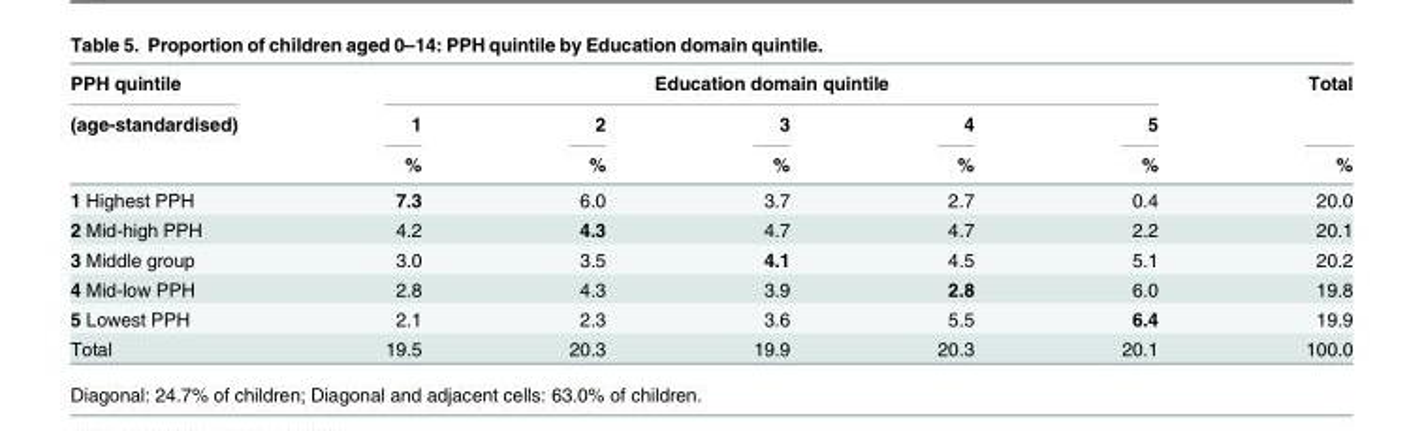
<table><thead><tr><td rowspan="3">PPH quintile (age-standardised)</td><td colspan="5">Education domain quintile</td><td rowspan="3">Total %</td></tr><tr><td rowspan="2">1 %</td><td rowspan="2">2 %</td><td rowspan="2">3 %</td><td rowspan="2">4 %</td><td rowspan="2">5 %</td></tr><tr></tr></thead><tbody><tr><td>1 Highest PPH</td><td>7.3</td><td>6.0</td><td>3.7</td><td>2.7</td><td>0.4</td><td>20.0</td></tr><tr><td>2 Mid-high PPH</td><td>4.2</td><td>4.3</td><td>4.7</td><td>4.7</td><td>2.2</td><td>20.1</td></tr><tr><td>3 Middle group</td><td>3.0</td><td>3.5</td><td>4.1</td><td>4.5</td><td>5.1</td><td>20.2</td></tr><tr><td>4 Mid-low PPH</td><td>2.8</td><td>4.3</td><td>3.9</td><td>2.8</td><td>6.0</td><td>19.8</td></tr><tr><td>5 Lowest PPH</td><td>2.1</td><td>2.3</td><td>3.6</td><td>5.5</td><td>6.4</td><td>19.9</td></tr><tr><td>Total</td><td>19.5</td><td>20.3</td><td>19.9</td><td>20.3</td><td>20.1</td><td>100.0</td></tr></tbody></table>